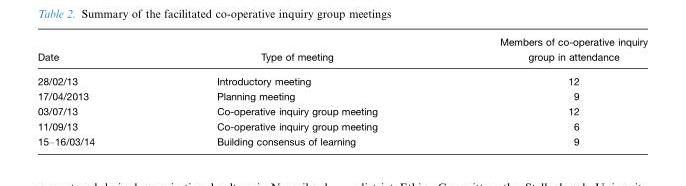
<table><thead><tr><td>Date</td><td>Type of meeting</td><td>Members of co-operative inquiry group in attendance</td></tr></thead><tbody><tr><td>28/02/13</td><td>Introductory meeting</td><td>12</td></tr><tr><td>17/04/2013</td><td>Planning meeting</td><td>9</td></tr><tr><td>03/07/13</td><td>Co-operative inquiry group meeting</td><td>12</td></tr><tr><td>11/09/13</td><td>Co-operative inquiry group meeting</td><td>6</td></tr><tr><td>15–16/03/14</td><td>Building consensus of learning</td><td>9</td></tr></tbody></table>